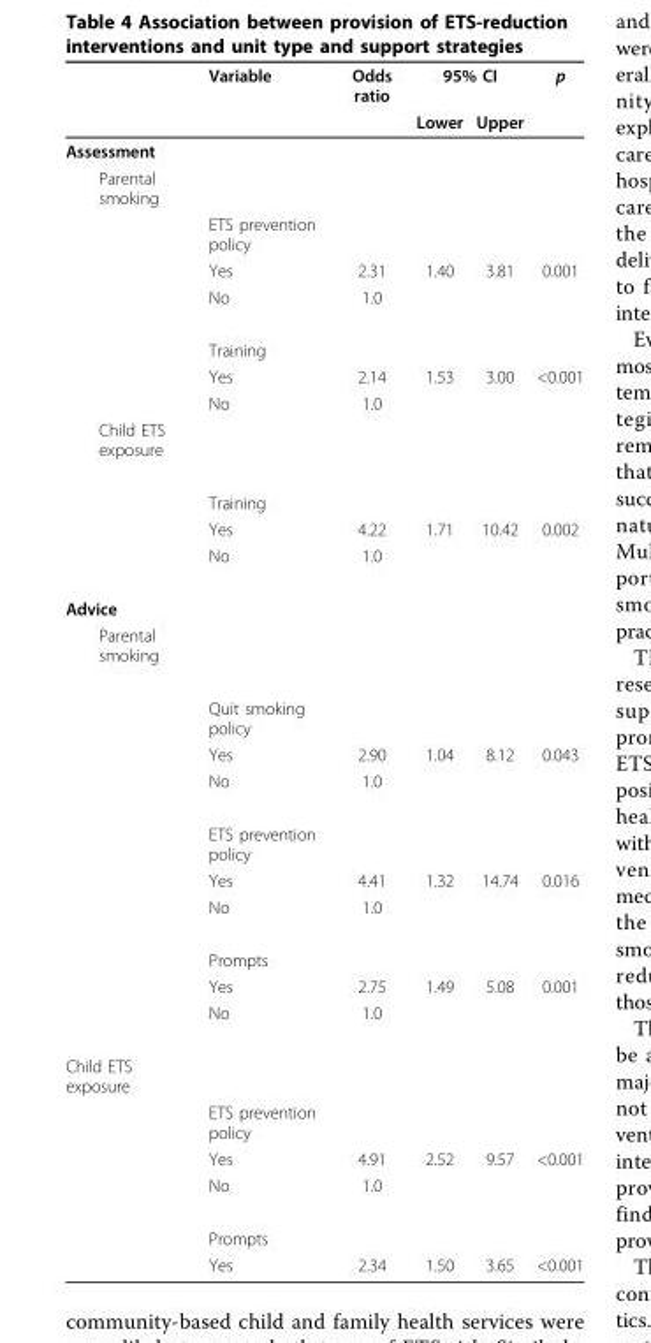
<table><thead><tr><td rowspan="2"></td><td rowspan="2">Variable</td><td rowspan="2">Odds ratio</td><td colspan="2">95% CI</td><td rowspan="2">p</td></tr><tr><td>Lower</td><td>Upper</td></tr></thead><tbody><tr><td colspan="6">Assessment</td></tr><tr><td colspan="6">Parental smoking</td></tr><tr><td></td><td>ETS prevention policy</td><td></td><td></td><td></td><td></td></tr><tr><td></td><td>Yes</td><td>2.31</td><td>1.40</td><td>3.81</td><td>0.001</td></tr><tr><td></td><td>No</td><td>1.0</td><td></td><td></td><td></td></tr><tr><td></td><td>Training</td><td></td><td></td><td></td><td></td></tr><tr><td></td><td>Yes</td><td>2.14</td><td>1.53</td><td>3.00</td><td>&lt;0.001</td></tr><tr><td></td><td>No</td><td>1.0</td><td></td><td></td><td></td></tr><tr><td colspan="6">Child ETS exposure</td></tr><tr><td></td><td>Training</td><td></td><td></td><td></td><td></td></tr><tr><td></td><td>Yes</td><td>4.22</td><td>1.71</td><td>10.42</td><td>0.002</td></tr><tr><td></td><td>No</td><td>1.0</td><td></td><td></td><td></td></tr><tr><td colspan="6">Advice</td></tr><tr><td colspan="6">Parental smoking</td></tr><tr><td></td><td>Quit smoking policy</td><td></td><td></td><td></td><td></td></tr><tr><td></td><td>Yes</td><td>2.90</td><td>1.04</td><td>8.12</td><td>0.043</td></tr><tr><td></td><td>No</td><td>1.0</td><td></td><td></td><td></td></tr><tr><td></td><td>ETS prevention policy</td><td></td><td></td><td></td><td></td></tr><tr><td></td><td>Yes</td><td>4.41</td><td>1.32</td><td>14.74</td><td>0.016</td></tr><tr><td></td><td>No</td><td>1.0</td><td></td><td></td><td></td></tr><tr><td></td><td>Prompts</td><td></td><td></td><td></td><td></td></tr><tr><td></td><td>Yes</td><td>2.75</td><td>1.49</td><td>5.08</td><td>0.001</td></tr><tr><td></td><td>No</td><td>1.0</td><td></td><td></td><td></td></tr><tr><td colspan="6">Child ETS exposure</td></tr><tr><td></td><td>ETS prevention policy</td><td></td><td></td><td></td><td></td></tr><tr><td></td><td>Yes</td><td>4.91</td><td>2.52</td><td>9.57</td><td>&lt;0.001</td></tr><tr><td></td><td>No</td><td>1.0</td><td></td><td></td><td></td></tr><tr><td></td><td>Prompts</td><td></td><td></td><td></td><td></td></tr><tr><td></td><td>Yes</td><td>2.34</td><td>1.50</td><td>3.65</td><td>&lt;0.001</td></tr></tbody></table>